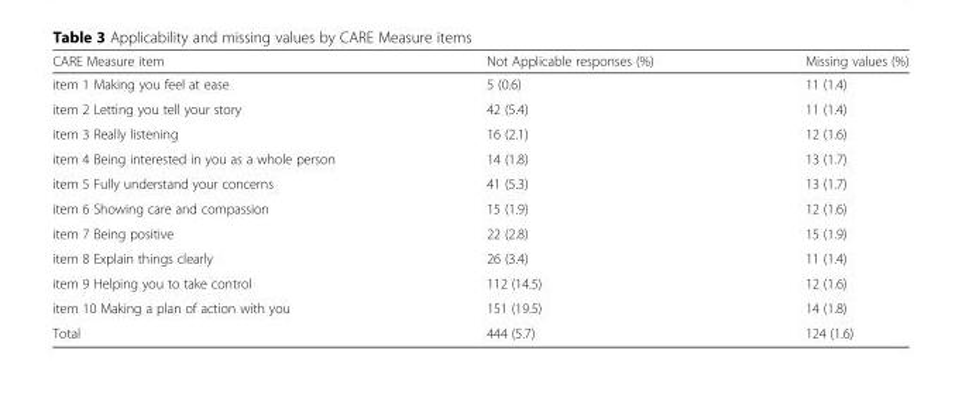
<table><thead><tr><td>CARE Measure item</td><td>Not Applicable responses (%)</td><td>Missing values (%)</td></tr></thead><tbody><tr><td>item 1 Making you feel at ease</td><td>5 (0.6)</td><td>11 (1.4)</td></tr><tr><td>item 2 Letting you tell your story</td><td>42 (5.4)</td><td>11 (1.4)</td></tr><tr><td>item 3 Really listening</td><td>16 (2.1)</td><td>12 (1.6)</td></tr><tr><td>item 4 Being interested in you as a whole person</td><td>14 (1.8)</td><td>13 (1.7)</td></tr><tr><td>item 5 Fully understand your concerns</td><td>41 (5.3)</td><td>13 (1.7)</td></tr><tr><td>item 6 Showing care and compassion</td><td>15 (1.9)</td><td>12 (1.6)</td></tr><tr><td>item 7 Being positive</td><td>22 (2.8)</td><td>15 (1.9)</td></tr><tr><td>item 8 Explain things clearly</td><td>26 (3.4)</td><td>11 (1.4)</td></tr><tr><td>item 9 Helping you to take control</td><td>112 (14.5)</td><td>12 (1.6)</td></tr><tr><td>item 10 Making a plan of action with you</td><td>151 (19.5)</td><td>14 (1.8)</td></tr><tr><td>Total</td><td>444 (5.7)</td><td>124 (1.6)</td></tr></tbody></table>